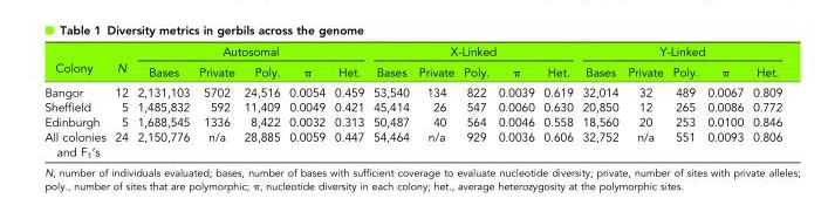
<table><thead><tr><td rowspan="2">Colony</td><td rowspan="2">N</td><td colspan="5">Autosomal</td><td colspan="5">X-Linked</td><td colspan="5">Y-Linked</td></tr><tr><td>Bases</td><td>Private</td><td>Poly.</td><td>π</td><td>Het.</td><td>Bases</td><td>Private</td><td>Poly.</td><td>π</td><td>Het.</td><td>Bases</td><td>Private</td><td>Poly.</td><td>π</td><td>Het.</td></tr></thead><tbody><tr><td>Bangor</td><td>12</td><td>2,131,103</td><td>5702</td><td>24,516</td><td>0.0054</td><td>0.459</td><td>53,540</td><td>134</td><td>822</td><td>0.0039</td><td>0.619</td><td>32,014</td><td>32</td><td>489</td><td>0.0067</td><td>0.809</td></tr><tr><td>Sheffield</td><td>5</td><td>1,485,832</td><td>592</td><td>11,409</td><td>0.0049</td><td>0.421</td><td>45,414</td><td>26</td><td>547</td><td>0.0060</td><td>0.630</td><td>20,850</td><td>12</td><td>265</td><td>0.0086</td><td>0.772</td></tr><tr><td>Edinburgh</td><td>5</td><td>1,688,545</td><td>1336</td><td>8,422</td><td>0.0032</td><td>0.313</td><td>50,487</td><td>40</td><td>564</td><td>0.0046</td><td>0.558</td><td>18,560</td><td>20</td><td>253</td><td>0.0100</td><td>0.846</td></tr><tr><td>All colonies and F<sub>1</sub>’s</td><td>24</td><td>2,150,776</td><td>n/a</td><td>28,885</td><td>0.0059</td><td>0.447</td><td>54,464</td><td>n/a</td><td>929</td><td>0.0036</td><td>0.606</td><td>32,752</td><td>n/a</td><td>551</td><td>0.0093</td><td>0.806</td></tr></tbody></table>